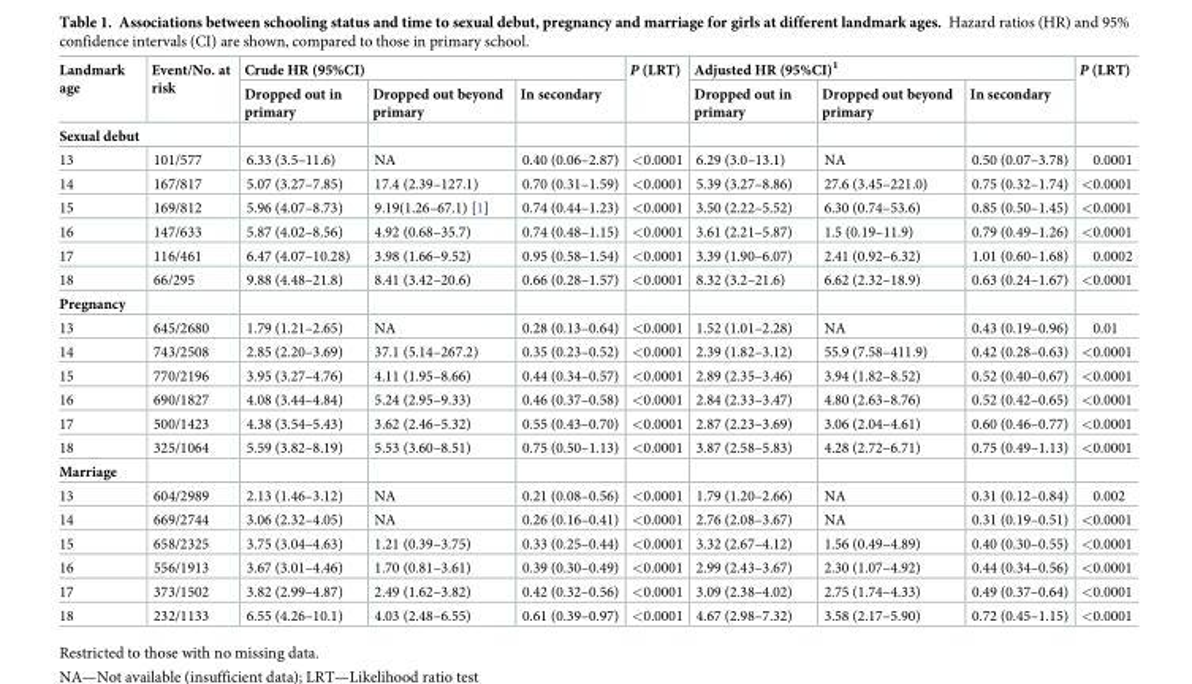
<table><thead><tr><td rowspan="2">Landmark age</td><td rowspan="2">Event/No. at risk</td><td colspan="3">Crude HR (95%CI)</td><td rowspan="2">P (LRT)</td><td colspan="3">Adjusted HR (95%CI)<sup>1</sup></td><td rowspan="2">P (LRT)</td></tr><tr><td>Dropped out in primary</td><td>Dropped out beyond primary</td><td>In secondary</td><td>Dropped out in primary</td><td>Dropped out beyond primary</td><td>In secondary</td></tr></thead><tbody><tr><td colspan="10">Sexual debut</td></tr><tr><td>13</td><td>101/577</td><td>6.33 (3.5–11.6)</td><td>NA</td><td>0.40 (0.06–2.87)</td><td>&lt;0.0001</td><td>6.29 (3.0–13.1)</td><td>NA</td><td>0.50 (0.07–3.78)</td><td>0.0001</td></tr><tr><td>14</td><td>167/817</td><td>5.07 (3.27–7.85)</td><td>17.4 (2.39–127.1)</td><td>0.70 (0.31–1.59)</td><td>&lt;0.0001</td><td>5.39 (3.27–8.86)</td><td>27.6 (3.45–221.0)</td><td>0.75 (0.32–1.74)</td><td>&lt;0.0001</td></tr><tr><td>15</td><td>169/812</td><td>5.96 (4.07–8.73)</td><td>9.19(1.26–67.1) [1]</td><td>0.74 (0.44–1.23)</td><td>&lt;0.0001</td><td>3.50 (2.22–5.52)</td><td>6.30 (0.74–53.6)</td><td>0.85 (0.50–1.45)</td><td>&lt;0.0001</td></tr><tr><td>16</td><td>147/633</td><td>5.87 (4.02–8.56)</td><td>4.92 (0.68–35.7)</td><td>0.74 (0.48–1.15)</td><td>&lt;0.0001</td><td>3.61 (2.21–5.87)</td><td>1.5 (0.19–11.9)</td><td>0.79 (0.49–1.26)</td><td>&lt;0.0001</td></tr><tr><td>17</td><td>116/461</td><td>6.47 (4.07–10.28)</td><td>3.98 (1.66–9.52)</td><td>0.95 (0.58–1.54)</td><td>&lt;0.0001</td><td>3.39 (1.90–6.07)</td><td>2.41 (0.92–6.32)</td><td>1.01 (0.60–1.68)</td><td>0.0002</td></tr><tr><td>18</td><td>66/295</td><td>9.88 (4.48–21.8)</td><td>8.41 (3.42–20.6)</td><td>0.66 (0.28–1.57)</td><td>&lt;0.0001</td><td>8.32 (3.2–21.6)</td><td>6.62 (2.32–18.9)</td><td>0.63 (0.24–1.67)</td><td>&lt;0.0001</td></tr><tr><td colspan="10">Pregnancy</td></tr><tr><td>13</td><td>645/2680</td><td>1.79 (1.21–2.65)</td><td>NA</td><td>0.28 (0.13–0.64)</td><td>&lt;0.0001</td><td>1.52 (1.01–2.28)</td><td>NA</td><td>0.43 (0.19–0.96)</td><td>0.01</td></tr><tr><td>14</td><td>743/2508</td><td>2.85 (2.20–3.69)</td><td>37.1 (5.14–267.2)</td><td>0.35 (0.23–0.52)</td><td>&lt;0.0001</td><td>2.39 (1.82–3.12)</td><td>55.9 (7.58–411.9)</td><td>0.42 (0.28–0.63)</td><td>&lt;0.0001</td></tr><tr><td>15</td><td>770/2196</td><td>3.95 (3.27–4.76)</td><td>4.11 (1.95–8.66)</td><td>0.44 (0.34–0.57)</td><td>&lt;0.0001</td><td>2.89 (2.35–3.46)</td><td>3.94 (1.82–8.52)</td><td>0.52 (0.40–0.67)</td><td>&lt;0.0001</td></tr><tr><td>16</td><td>690/1827</td><td>4.08 (3.44–4.84)</td><td>5.24 (2.95–9.33)</td><td>0.46 (0.37–0.58)</td><td>&lt;0.0001</td><td>2.84 (2.33–3.47)</td><td>4.80 (2.63–8.76)</td><td>0.52 (0.42–0.65)</td><td>&lt;0.0001</td></tr><tr><td>17</td><td>500/1423</td><td>4.38 (3.54–5.43)</td><td>3.62 (2.46–5.32)</td><td>0.55 (0.43–0.70)</td><td>&lt;0.0001</td><td>2.87 (2.23–3.69)</td><td>3.06 (2.04–4.61)</td><td>0.60 (0.46–0.77)</td><td>&lt;0.0001</td></tr><tr><td>18</td><td>325/1064</td><td>5.59 (3.82–8.19)</td><td>5.53 (3.60–8.51)</td><td>0.75 (0.50–1.13)</td><td>&lt;0.0001</td><td>3.87 (2.58–5.83)</td><td>4.28 (2.72–6.71)</td><td>0.75 (0.49–1.13)</td><td>&lt;0.0001</td></tr><tr><td colspan="10">Marriage</td></tr><tr><td>13</td><td>604/2989</td><td>2.13 (1.46–3.12)</td><td>NA</td><td>0.21 (0.08–0.56)</td><td>&lt;0.0001</td><td>1.79 (1.20–2.66)</td><td>NA</td><td>0.31 (0.12–0.84)</td><td>0.002</td></tr><tr><td>14</td><td>669/2744</td><td>3.06 (2.32–4.05)</td><td>NA</td><td>0.26 (0.16–0.41)</td><td>&lt;0.0001</td><td>2.76 (2.08–3.67)</td><td>NA</td><td>0.31 (0.19–0.51)</td><td>&lt;0.0001</td></tr><tr><td>15</td><td>658/2325</td><td>3.75 (3.04–4.63)</td><td>1.21 (0.39–3.75)</td><td>0.33 (0.25–0.44)</td><td>&lt;0.0001</td><td>3.32 (2.67–4.12)</td><td>1.56 (0.49–4.89)</td><td>0.40 (0.30–0.55)</td><td>&lt;0.0001</td></tr><tr><td>16</td><td>556/1913</td><td>3.67 (3.01–4.46)</td><td>1.70 (0.81–3.61)</td><td>0.39 (0.30–0.49)</td><td>&lt;0.0001</td><td>2.99 (2.43–3.67)</td><td>2.30 (1.07–4.92)</td><td>0.44 (0.34–0.56)</td><td>&lt;0.0001</td></tr><tr><td>17</td><td>373/1502</td><td>3.82 (2.99–4.87)</td><td>2.49 (1.62–3.82)</td><td>0.42 (0.32–0.56)</td><td>&lt;0.0001</td><td>3.09 (2.38–4.02)</td><td>2.75 (1.74–4.33)</td><td>0.49 (0.37–0.64)</td><td>&lt;0.0001</td></tr><tr><td>18</td><td>232/1133</td><td>6.55 (4.26–10.1)</td><td>4.03 (2.48–6.55)</td><td>0.61 (0.39–0.97)</td><td>&lt;0.0001</td><td>4.67 (2.98–7.32)</td><td>3.58 (2.17–5.90)</td><td>0.72 (0.45–1.15)</td><td>&lt;0.0001</td></tr></tbody></table>